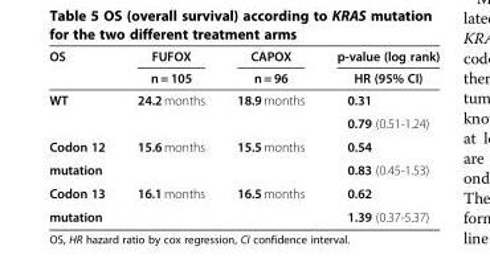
<table><thead><tr><td rowspan="2">OS</td><td rowspan="2">FUFOX n = 105</td><td rowspan="2">CAPOX n = 96</td><td rowspan="2">p-value (log rank) HR (95% CI)</td></tr><tr></tr></thead><tbody><tr><td rowspan="2">WT</td><td>24.2 months</td><td>18.9 months</td><td>0.31</td></tr><tr><td></td><td></td><td>0.79 (0.51-1.24)</td></tr><tr><td>Codon 12</td><td>15.6 months</td><td>15.5 months</td><td>0.54</td></tr><tr><td>mutation</td><td></td><td></td><td>0.83 (0.45-1.53)</td></tr><tr><td>Codon 13</td><td>16.1 months</td><td>16.5 months</td><td>0.62</td></tr><tr><td>mutation</td><td></td><td></td><td>1.39 (0.37-5.37)</td></tr></tbody></table>